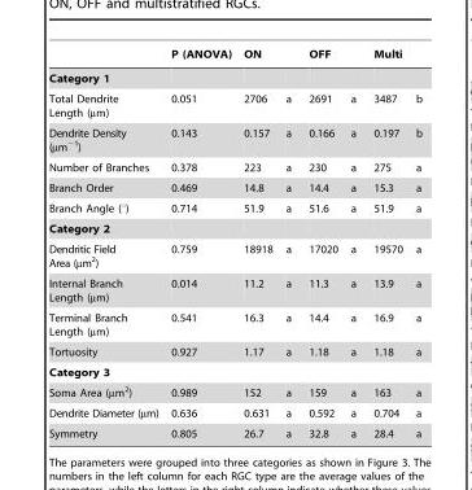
<table><thead><tr><td rowspan="2">Category 1</td><td rowspan="2">P (ANOVA)</td><td colspan="2">ON</td><td colspan="2">OFF</td><td colspan="2">Multi</td></tr><tr><td></td><td></td><td></td><td></td><td></td><td></td></tr></thead><tbody><tr><td>Total Dendrite Length (µm)</td><td>0.051</td><td>2706</td><td>a</td><td>2691</td><td>a</td><td>3487</td><td>b</td></tr><tr><td>Dendrite Density (µm<sup>−1</sup>)</td><td>0.143</td><td>0.157</td><td>a</td><td>0.166</td><td>a</td><td>0.197</td><td>b</td></tr><tr><td>Number of Branches</td><td>0.378</td><td>223</td><td>a</td><td>230</td><td>a</td><td>275</td><td>a</td></tr><tr><td>Branch Order</td><td>0.469</td><td>14.8</td><td>a</td><td>14.4</td><td>a</td><td>15.3</td><td>a</td></tr><tr><td>Branch Angle (°)</td><td>0.714</td><td>51.9</td><td>a</td><td>51.6</td><td>a</td><td>51.9</td><td>a</td></tr><tr><td colspan="8">Category 2</td></tr><tr><td>Dendritic Field Area (µm<sup>2</sup>)</td><td>0.759</td><td>18918</td><td>a</td><td>17020</td><td>a</td><td>19570</td><td>a</td></tr><tr><td>Internal Branch Length (µm)</td><td>0.014</td><td>11.2</td><td>a</td><td>11.3</td><td>a</td><td>13.9</td><td>a</td></tr><tr><td>Terminal Branch Length (µm)</td><td>0.541</td><td>16.3</td><td>a</td><td>14.4</td><td>a</td><td>16.9</td><td>a</td></tr><tr><td>Tortuosity</td><td>0.927</td><td>1.17</td><td>a</td><td>1.18</td><td>a</td><td>1.18</td><td>a</td></tr><tr><td colspan="8">Category 3</td></tr><tr><td>Soma Area (µm<sup>2</sup>)</td><td>0.989</td><td>152</td><td>a</td><td>159</td><td>a</td><td>163</td><td>a</td></tr><tr><td>Dendrite Diameter (µm)</td><td>0.636</td><td>0.631</td><td>a</td><td>0.592</td><td>a</td><td>0.704</td><td>a</td></tr><tr><td>Symmetry</td><td>0.805</td><td>26.7</td><td>a</td><td>32.8</td><td>a</td><td>28.4</td><td>a</td></tr></tbody></table>